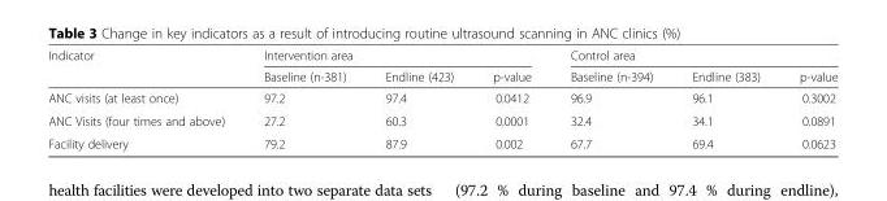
<table><thead><tr><td rowspan="2">Indicator</td><td colspan="3">Intervention area</td><td colspan="3">Control area</td></tr><tr><td>Baseline (n-381)</td><td>Endline (423)</td><td>p-value</td><td>Baseline (n-394)</td><td>Endline (383)</td><td>p-value</td></tr></thead><tbody><tr><td>ANC visits (at least once)</td><td>97.2</td><td>97.4</td><td>0.0412</td><td>96.9</td><td>96.1</td><td>0.3002</td></tr><tr><td>ANC Visits (four times and above)</td><td>27.2</td><td>60.3</td><td>0.0001</td><td>32.4</td><td>34.1</td><td>0.0891</td></tr><tr><td>Facility delivery</td><td>79.2</td><td>87.9</td><td>0.002</td><td>67.7</td><td>69.4</td><td>0.0623</td></tr></tbody></table>